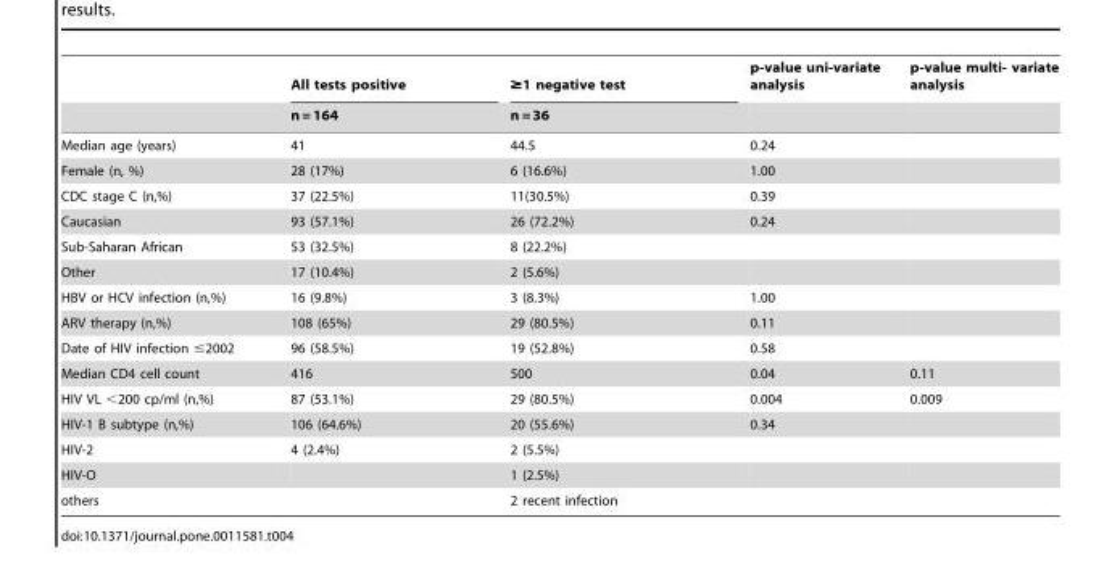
<table><thead><tr><td rowspan="2"></td><td rowspan="2">All tests positive n = 164</td><td rowspan="2">≥1 negative test n = 36</td><td rowspan="2">p-value uni-variate analysis</td><td rowspan="2">p-value multi- variate analysis</td></tr><tr></tr></thead><tbody><tr><td>Median age (years)</td><td>41</td><td>44.5</td><td>0.24</td><td></td></tr><tr><td>Female (n, %)</td><td>28 (17%)</td><td>6 (16.6%)</td><td>1.00</td><td></td></tr><tr><td>CDC stage C (n,%)</td><td>37 (22.5%)</td><td>11(30.5%)</td><td>0.39</td><td></td></tr><tr><td>Caucasian</td><td>93 (57.1%)</td><td>26 (72.2%)</td><td>0.24</td><td></td></tr><tr><td>Sub-Saharan African</td><td>53 (32.5%)</td><td>8 (22.2%)</td><td></td><td></td></tr><tr><td>Other</td><td>17 (10.4%)</td><td>2 (5.6%)</td><td></td><td></td></tr><tr><td>HBV or HCV infection (n,%)</td><td>16 (9.8%)</td><td>3 (8.3%)</td><td>1.00</td><td></td></tr><tr><td>ARV therapy (n,%)</td><td>108 (65%)</td><td>29 (80.5%)</td><td>0.11</td><td></td></tr><tr><td>Date of HIV infection ≤2002</td><td>96 (58.5%)</td><td>19 (52.8%)</td><td>0.58</td><td></td></tr><tr><td>Median CD4 cell count</td><td>416</td><td>500</td><td>0.04</td><td>0.11</td></tr><tr><td>HIV VL &lt;200 cp/ml (n,%)</td><td>87 (53.1%)</td><td>29 (80.5%)</td><td>0.004</td><td>0.009</td></tr><tr><td>HIV-1 B subtype (n,%)</td><td>106 (64.6%)</td><td>20 (55.6%)</td><td>0.34</td><td></td></tr><tr><td>HIV-2</td><td>4 (2.4%)</td><td>2 (5.5%)</td><td></td><td></td></tr><tr><td>HIV-O</td><td></td><td>1 (2.5%)</td><td></td><td></td></tr><tr><td>others</td><td></td><td>2 recent infection</td><td></td><td></td></tr></tbody></table>